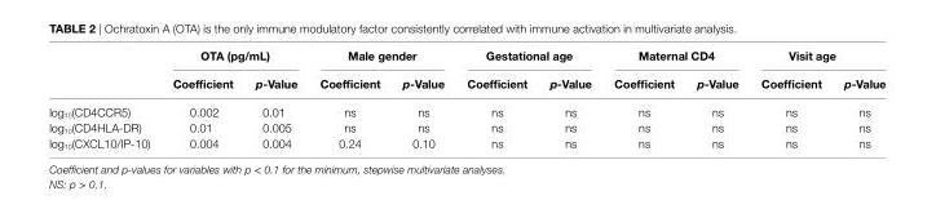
<table><thead><tr><td rowspan="2"></td><td colspan="2">OTa (pg/ml)</td><td colspan="2">Male gender</td><td colspan="2">gestational age</td><td colspan="2">Maternal cD4</td><td colspan="2">Visit age</td></tr><tr><td>coefficient</td><td>p-Value</td><td>coefficient</td><td>p-Value</td><td>coefficient</td><td>p-Value</td><td>coefficient</td><td>p-Value</td><td>coefficient</td><td>p-Value</td></tr></thead><tbody><tr><td>log<sub>10</sub>(CD4CCR5)</td><td>0.002</td><td>0.01</td><td>ns</td><td>ns</td><td>ns</td><td>ns</td><td>ns</td><td>ns</td><td>ns</td><td>ns</td></tr><tr><td>log<sub>10</sub>(CD4HLA-DR)</td><td>0.01</td><td>0.005</td><td>ns</td><td>ns</td><td>ns</td><td>ns</td><td>ns</td><td>ns</td><td>ns</td><td>ns</td></tr><tr><td>log<sub>10</sub>(CXCL10/IP-10)</td><td>0.004</td><td>0.004</td><td>0.24</td><td>0.10</td><td>ns</td><td>ns</td><td>ns</td><td>ns</td><td>ns</td><td>ns</td></tr></tbody></table>